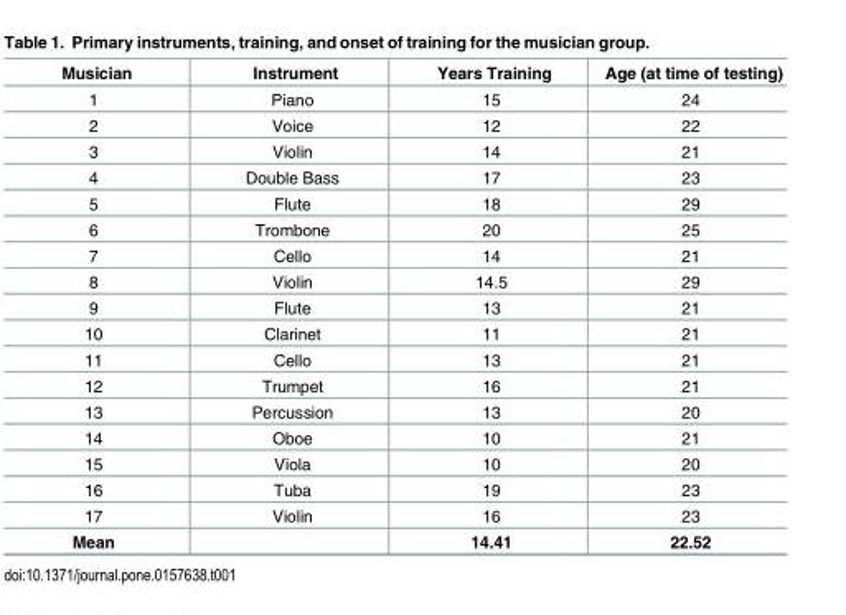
<table><thead><tr><td>Musician</td><td>Instrument</td><td>Years Training</td><td>Age (at time of testing)</td></tr></thead><tbody><tr><td>1</td><td>Piano</td><td>15</td><td>24</td></tr><tr><td>2</td><td>Voice</td><td>12</td><td>22</td></tr><tr><td>3</td><td>Violin</td><td>14</td><td>21</td></tr><tr><td>4</td><td>Double Bass</td><td>17</td><td>23</td></tr><tr><td>5</td><td>Flute</td><td>18</td><td>29</td></tr><tr><td>6</td><td>Trombone</td><td>20</td><td>25</td></tr><tr><td>7</td><td>Cello</td><td>14</td><td>21</td></tr><tr><td>8</td><td>Violin</td><td>14.5</td><td>29</td></tr><tr><td>9</td><td>Flute</td><td>13</td><td>21</td></tr><tr><td>10</td><td>Clarinet</td><td>11</td><td>21</td></tr><tr><td>11</td><td>Cello</td><td>13</td><td>21</td></tr><tr><td>12</td><td>Trumpet</td><td>16</td><td>21</td></tr><tr><td>13</td><td>Percussion</td><td>13</td><td>20</td></tr><tr><td>14</td><td>Oboe</td><td>10</td><td>21</td></tr><tr><td>15</td><td>Viola</td><td>10</td><td>20</td></tr><tr><td>16</td><td>Tuba</td><td>19</td><td>23</td></tr><tr><td>17</td><td>Violin</td><td>16</td><td>23</td></tr><tr><td>Mean</td><td></td><td>14.41</td><td>22.52</td></tr></tbody></table>